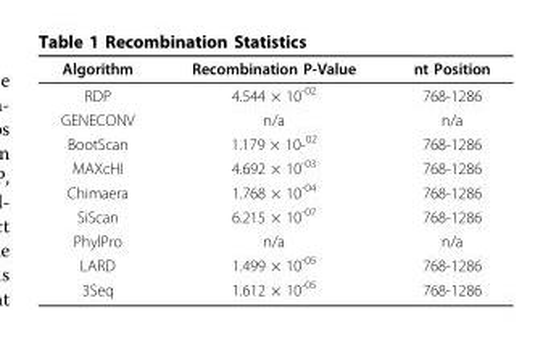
<table><thead><tr><td>Algorithm</td><td>Recombination P-Value</td><td>nt Position</td></tr></thead><tbody><tr><td>RDP</td><td>4.544 × 10<sup>-02</sup></td><td>768-1286</td></tr><tr><td>GENECONV</td><td>n/a</td><td>n/a</td></tr><tr><td>BootScan</td><td>1.179 × 10-<sup>02</sup></td><td>768-1286</td></tr><tr><td>MAXcHI</td><td>4.692 × 10<sup>-03</sup></td><td>768-1286</td></tr><tr><td>Chimaera</td><td>1.768 × 10<sup>-04</sup></td><td>768-1286</td></tr><tr><td>SiScan</td><td>6.215 × 10<sup>-07</sup></td><td>768-1286</td></tr><tr><td>PhylPro</td><td>n/a</td><td>n/a</td></tr><tr><td>LARD</td><td>1.499 × 10<sup>-05</sup></td><td>768-1286</td></tr><tr><td>3Seq</td><td>1.612 × 10<sup>-05</sup></td><td>768-1286</td></tr></tbody></table>